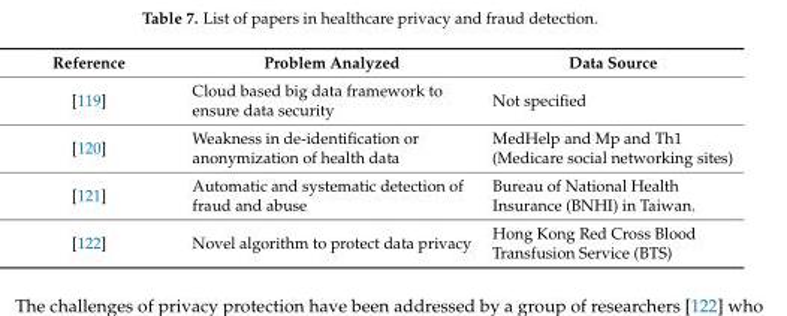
<table><thead><tr><td>Reference</td><td>Problem Analyzed</td><td>Data Source</td></tr></thead><tbody><tr><td>[119]</td><td>Cloud based big data framework to ensure data security</td><td>Not specified</td></tr><tr><td>[120]</td><td>Weakness in de-identification or anonymization of health data</td><td>MedHelp and Mp and Th1 (Medicare social networking sites)</td></tr><tr><td>[121]</td><td>Automatic and systematic detection of fraud and abuse</td><td>Bureau of National Health Insurance (BNHI) in Taiwan.</td></tr><tr><td>[122]</td><td>Novel algorithm to protect data privacy</td><td>Hong Kong Red Cross Blood Transfusion Service (BTS)</td></tr></tbody></table>